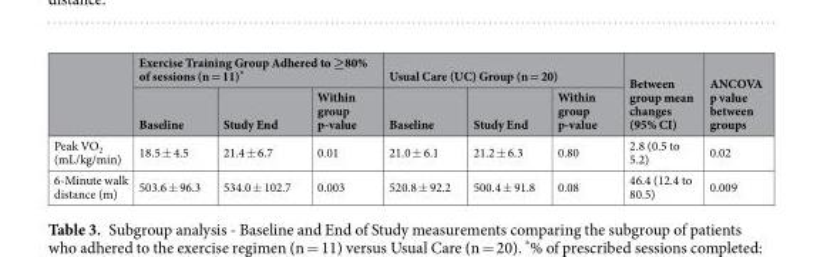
<table><thead><tr><td rowspan="2"></td><td colspan="3">Exercise Training Group Adhered to ≥80% of sessions (n = 11)*</td><td colspan="3">Usual Care (UC) Group (n = 20)</td><td rowspan="2">Between group mean changes (95% CI)</td><td rowspan="2">ANCOVA p value between groups</td></tr><tr><td>Baseline</td><td>Study End</td><td>Within group p-value</td><td>Baseline</td><td>Study End</td><td>Within group p-value</td></tr></thead><tbody><tr><td>Peak VO<sub>2</sub> (mL/kg/min)</td><td>18.5 ± 4.5</td><td>21.4 ± 6.7</td><td>0.01</td><td>21.0 ± 6.1</td><td>21.2 ± 6.3</td><td>0.80</td><td>2.8 (0.5 to 5.2)</td><td>0.02</td></tr><tr><td>6-Minute walk distance (m)</td><td>503.6 ± 96.3</td><td>534.0 ± 102.7</td><td>0.003</td><td>520.8 ± 92.2</td><td>500.4 ± 91.8</td><td>0.08</td><td>46.4 (12.4 to 80.5)</td><td>0.009</td></tr></tbody></table>